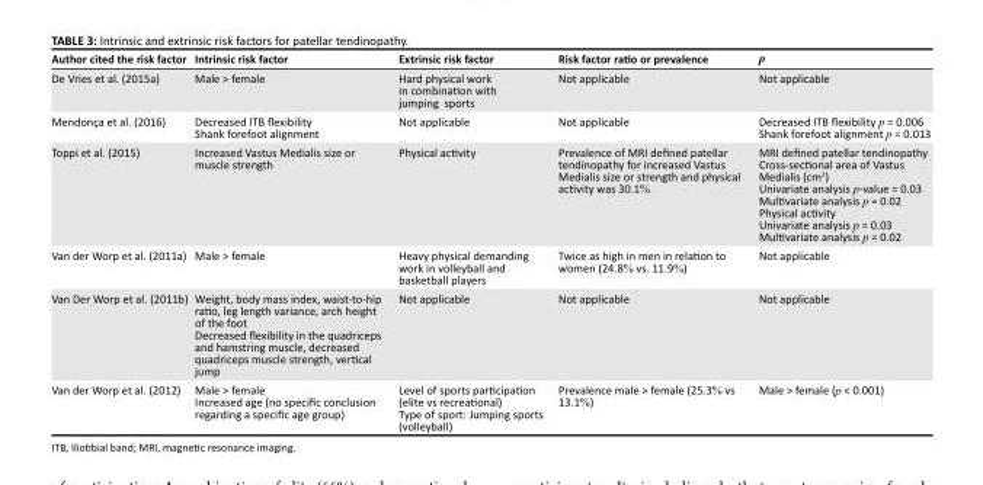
<table><thead><tr><td>Author cited the risk factor</td><td>Intrinsic risk factor</td><td>Extrinsic risk factor</td><td>Risk factor ratio or prevalence</td><td>p</td></tr></thead><tbody><tr><td>De Vries et al. (2015a)</td><td>Male &gt; female</td><td>Hard physical work in combination with jumping sports</td><td>Not applicable</td><td>Not applicable</td></tr><tr><td>Mendonça et al. (2016)</td><td>Decreased ITB flexibility Shank forefoot alignment</td><td>Not applicable</td><td>Not applicable</td><td>Decreased ITB flexibility p = 0.006 Shank forefoot alignment p = 0.013</td></tr><tr><td>Toppi et al. (2015)</td><td>Increased Vastus Medialis size or muscle strength</td><td>Physical activity</td><td>Prevalence of MRI defined patellar tendinopathy for increased Vastus Medialis size or strength and physical activity was 30.1%</td><td>MRI defined patellar tendinopathy Cross-sectional area of Vastus Medialis (cm<sup>2</sup>) Univariate analysis p-value = 0.03 Multivariate analysis p = 0.02 Physical activity Univariate analysis p = 0.03 Multivariate analysis p = 0.02</td></tr><tr><td>Van der Worp et al. (2011a)</td><td>Male &gt; female</td><td>Heavy physical demanding work in volleyball and basketball players</td><td>Twice as high in men in relation to women (24.8% vs. 11.9%)</td><td>Not applicable</td></tr><tr><td>Van Der Worp et al. (2011b)</td><td>Weight, body mass index, waist-to-hip ratio, leg length variance, arch height of the foot Decreased flexibility in the quadriceps and hamstring muscle, decreased quadriceps muscle strength, vertical jump</td><td>Not applicable</td><td>Not applicable</td><td>Not applicable</td></tr><tr><td>Van der Worp et al. (2012)</td><td>Male &gt; female Increased age (no specific conclusion regarding a specific age group)</td><td>Level of sports participation (elite vs recreational) Type of sport: Jumping sports (volleyball)</td><td>Prevalence male &gt; female (25.3% vs 13.1%)</td><td>Male &gt; female (p &lt; 0.001)</td></tr></tbody></table>